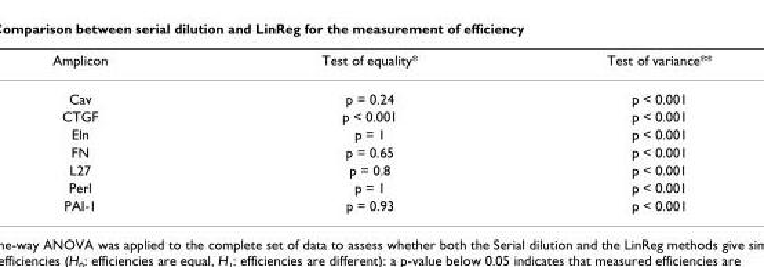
<table><thead><tr><td>Amplicon</td><td>Test of equality*</td><td>Test of variance**</td></tr></thead><tbody><tr><td>Cav</td><td>p = 0.24</td><td>p &lt; 0.001</td></tr><tr><td>CTGF</td><td>p &lt; 0.001</td><td>p &lt; 0.001</td></tr><tr><td>Eln</td><td>p = 1</td><td>p &lt; 0.001</td></tr><tr><td>FN</td><td>p = 0.65</td><td>p &lt; 0.001</td></tr><tr><td>L27</td><td>p = 0.8</td><td>p &lt; 0.001</td></tr><tr><td>Perl</td><td>p = 1</td><td>p &lt; 0.001</td></tr><tr><td>PAI-1</td><td>p = 0.93</td><td>p &lt; 0.001</td></tr></tbody></table>